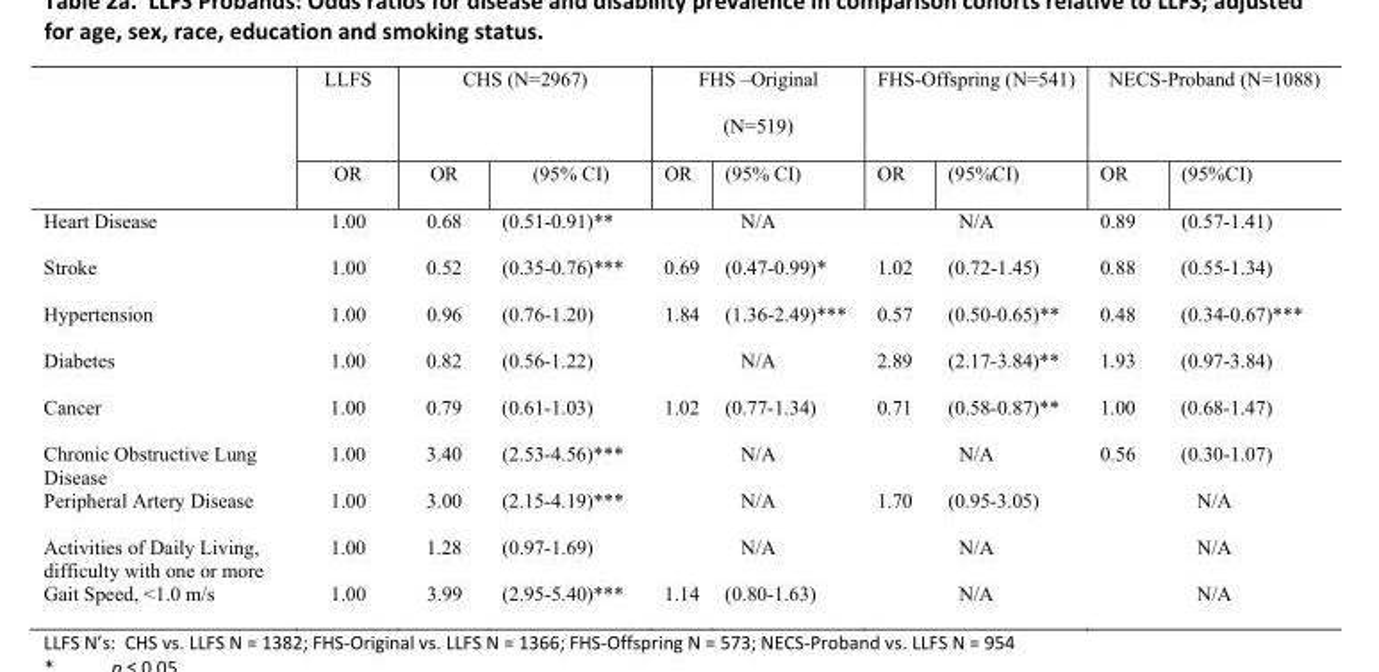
<table><thead><tr><td rowspan="2"></td><td rowspan="2">LLFS OR</td><td colspan="2">CHS (N=2967)</td><td colspan="2">FHS –Original (N=519)</td><td colspan="2">FHS-Offspring (N=541)</td><td colspan="2">NECS-Proband (N=1088)</td></tr><tr><td>OR</td><td>(95% CI)</td><td>OR</td><td>(95% CI)</td><td>OR</td><td>(95%CI)</td><td>OR</td><td>(95%CI)</td></tr></thead><tbody><tr><td>Heart Disease</td><td>1.00</td><td>0.68</td><td>(0.51-0.91)**</td><td></td><td>N/A</td><td></td><td>N/A</td><td>0.89</td><td>(0.57-1.41)</td></tr><tr><td>Stroke</td><td>1.00</td><td>0.52</td><td>(0.35-0.76)***</td><td>0.69</td><td>(0.47-0.99)*</td><td>1.02</td><td>(0.72-1.45)</td><td>0.88</td><td>(0.55-1.34)</td></tr><tr><td>Hypertension</td><td>1.00</td><td>0.96</td><td>(0.76-1.20)</td><td>1.84</td><td>(1.36-2.49)***</td><td>0.57</td><td>(0.50-0.65)**</td><td>0.48</td><td>(0.34-0.67)***</td></tr><tr><td>Diabetes</td><td>1.00</td><td>0.82</td><td>(0.56-1.22)</td><td></td><td>N/A</td><td>2.89</td><td>(2.17-3.84)**</td><td>1.93</td><td>(0.97-3.84)</td></tr><tr><td>Cancer</td><td>1.00</td><td>0.79</td><td>(0.61-1.03)</td><td>1.02</td><td>(0.77-1.34)</td><td>0.71</td><td>(0.58-0.87)**</td><td>1.00</td><td>(0.68-1.47)</td></tr><tr><td>Chronic Obstructive Lung Disease</td><td>1.00</td><td>3.40</td><td>(2.53-4.56)***</td><td></td><td>N/A</td><td></td><td>N/A</td><td>0.56</td><td>(0.30-1.07)</td></tr><tr><td>Peripheral Artery Disease</td><td>1.00</td><td>3.00</td><td>(2.15-4.19)***</td><td></td><td>N/A</td><td>1.70</td><td>(0.95-3.05)</td><td></td><td>N/A</td></tr><tr><td>Activities of Daily Living, difficulty with one or more</td><td>1.00</td><td>1.28</td><td>(0.97-1.69)</td><td></td><td>N/A</td><td></td><td>N/A</td><td></td><td>N/A</td></tr><tr><td>Gait Speed, &lt;1.0 m/s</td><td>1.00</td><td>3.99</td><td>(2.95-5.40)***</td><td>1.14</td><td>(0.80-1.63)</td><td></td><td>N/A</td><td></td><td>N/A</td></tr></tbody></table>